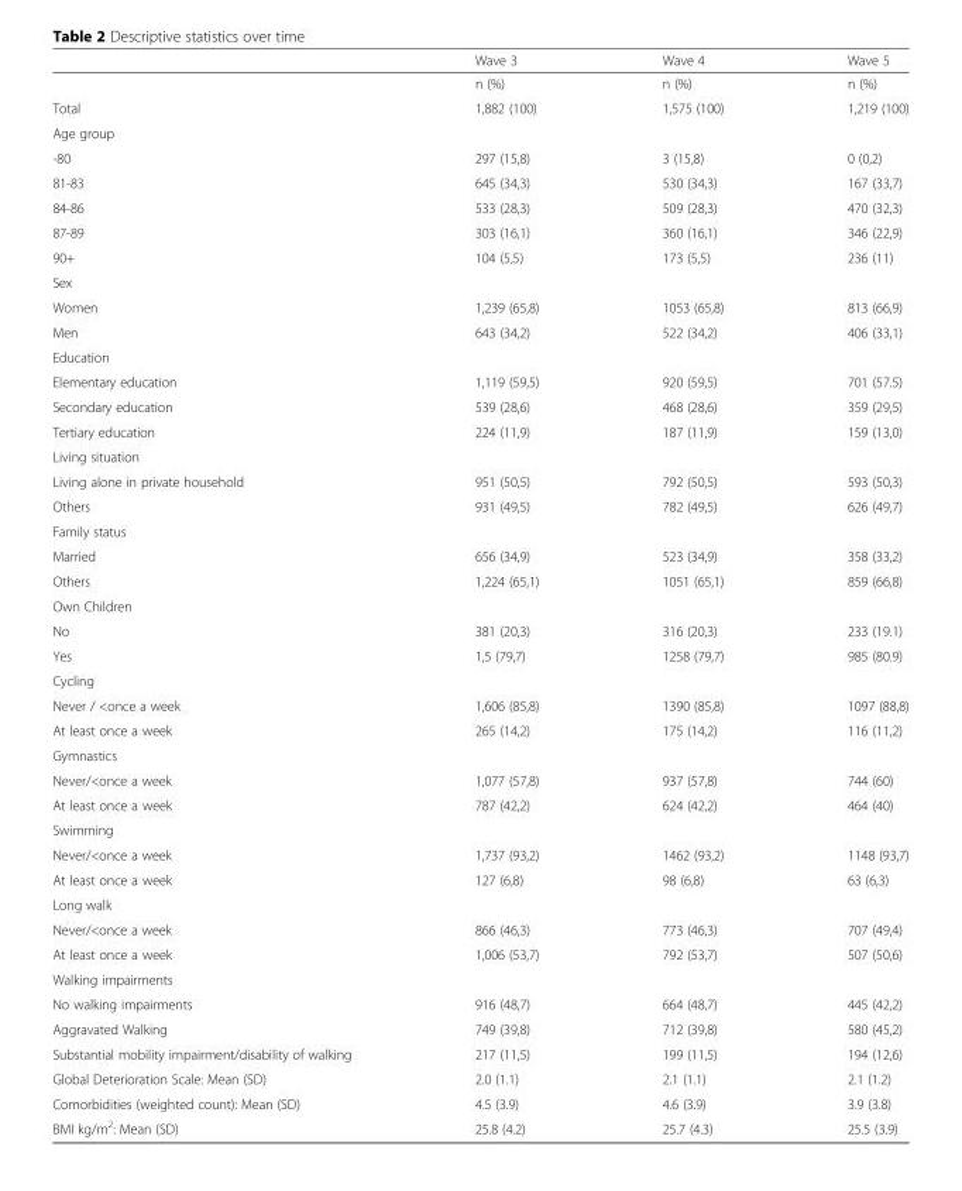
<table><thead><tr><td></td><td>Wave 3</td><td>Wave 4</td><td>Wave 5</td></tr></thead><tbody><tr><td></td><td>n (%)</td><td>n (%)</td><td>n (%)</td></tr><tr><td>Total</td><td>1,882 (100)</td><td>1,575 (100)</td><td>1,219 (100)</td></tr><tr><td colspan="4">Age group</td></tr><tr><td>-80</td><td>297 (15,8)</td><td>3 (15,8)</td><td>0 (0,2)</td></tr><tr><td>81-83</td><td>645 (34,3)</td><td>530 (34,3)</td><td>167 (33,7)</td></tr><tr><td>84-86</td><td>533 (28,3)</td><td>509 (28,3)</td><td>470 (32,3)</td></tr><tr><td>87-89</td><td>303 (16,1)</td><td>360 (16,1)</td><td>346 (22,9)</td></tr><tr><td>90+</td><td>104 (5,5)</td><td>173 (5,5)</td><td>236 (11)</td></tr><tr><td colspan="4">Sex</td></tr><tr><td>Women</td><td>1,239 (65,8)</td><td>1053 (65,8)</td><td>813 (66,9)</td></tr><tr><td>Men</td><td>643 (34,2)</td><td>522 (34,2)</td><td>406 (33,1)</td></tr><tr><td colspan="4">Education</td></tr><tr><td>Elementary education</td><td>1,119 (59,5)</td><td>920 (59,5)</td><td>701 (57.5)</td></tr><tr><td>Secondary education</td><td>539 (28,6)</td><td>468 (28,6)</td><td>359 (29,5)</td></tr><tr><td>Tertiary education</td><td>224 (11,9)</td><td>187 (11,9)</td><td>159 (13,0)</td></tr><tr><td colspan="4">Living situation</td></tr><tr><td>Living alone in private household</td><td>951 (50,5)</td><td>792 (50,5)</td><td>593 (50,3)</td></tr><tr><td>Others</td><td>931 (49,5)</td><td>782 (49,5)</td><td>626 (49,7)</td></tr><tr><td colspan="4">Family status</td></tr><tr><td>Married</td><td>656 (34,9)</td><td>523 (34,9)</td><td>358 (33,2)</td></tr><tr><td>Others</td><td>1,224 (65,1)</td><td>1051 (65,1)</td><td>859 (66,8)</td></tr><tr><td colspan="4">Own Children</td></tr><tr><td>No</td><td>381 (20,3)</td><td>316 (20,3)</td><td>233 (19.1)</td></tr><tr><td>Yes</td><td>1,5 (79,7)</td><td>1258 (79,7)</td><td>985 (80.9)</td></tr><tr><td colspan="4">Cycling</td></tr><tr><td>Never / &lt;once a week</td><td>1,606 (85,8)</td><td>1390 (85,8)</td><td>1097 (88,8)</td></tr><tr><td>At least once a week</td><td>265 (14,2)</td><td>175 (14,2)</td><td>116 (11,2)</td></tr><tr><td colspan="4">Gymnastics</td></tr><tr><td>Never/&lt;once a week</td><td>1,077 (57,8)</td><td>937 (57,8)</td><td>744 (60)</td></tr><tr><td>At least once a week</td><td>787 (42,2)</td><td>624 (42,2)</td><td>464 (40)</td></tr><tr><td colspan="4">Swimming</td></tr><tr><td>Never/&lt;once a week</td><td>1,737 (93,2)</td><td>1462 (93,2)</td><td>1148 (93,7)</td></tr><tr><td>At least once a week</td><td>127 (6,8)</td><td>98 (6,8)</td><td>63 (6,3)</td></tr><tr><td colspan="4">Long walk</td></tr><tr><td>Never/&lt;once a week</td><td>866 (46,3)</td><td>773 (46,3)</td><td>707 (49,4)</td></tr><tr><td>At least once a week</td><td>1,006 (53,7)</td><td>792 (53,7)</td><td>507 (50,6)</td></tr><tr><td colspan="4">Walking impairments</td></tr><tr><td>No walking impairments</td><td>916 (48,7)</td><td>664 (48,7)</td><td>445 (42,2)</td></tr><tr><td>Aggravated Walking</td><td>749 (39,8)</td><td>712 (39,8)</td><td>580 (45,2)</td></tr><tr><td>Substantial mobility impairment/disability of walking</td><td>217 (11,5)</td><td>199 (11,5)</td><td>194 (12,6)</td></tr><tr><td>Global Deterioration Scale: Mean (SD)</td><td>2.0 (1.1)</td><td>2.1 (1.1)</td><td>2.1 (1.2)</td></tr><tr><td>Comorbidities (weighted count): Mean (SD)</td><td>4.5 (3.9)</td><td>4.6 (3.9)</td><td>3.9 (3.8)</td></tr><tr><td>BMI kg/m<sup>2</sup>: Mean (SD)</td><td>25.8 (4.2)</td><td>25.7 (4.3)</td><td>25.5 (3.9)</td></tr></tbody></table>